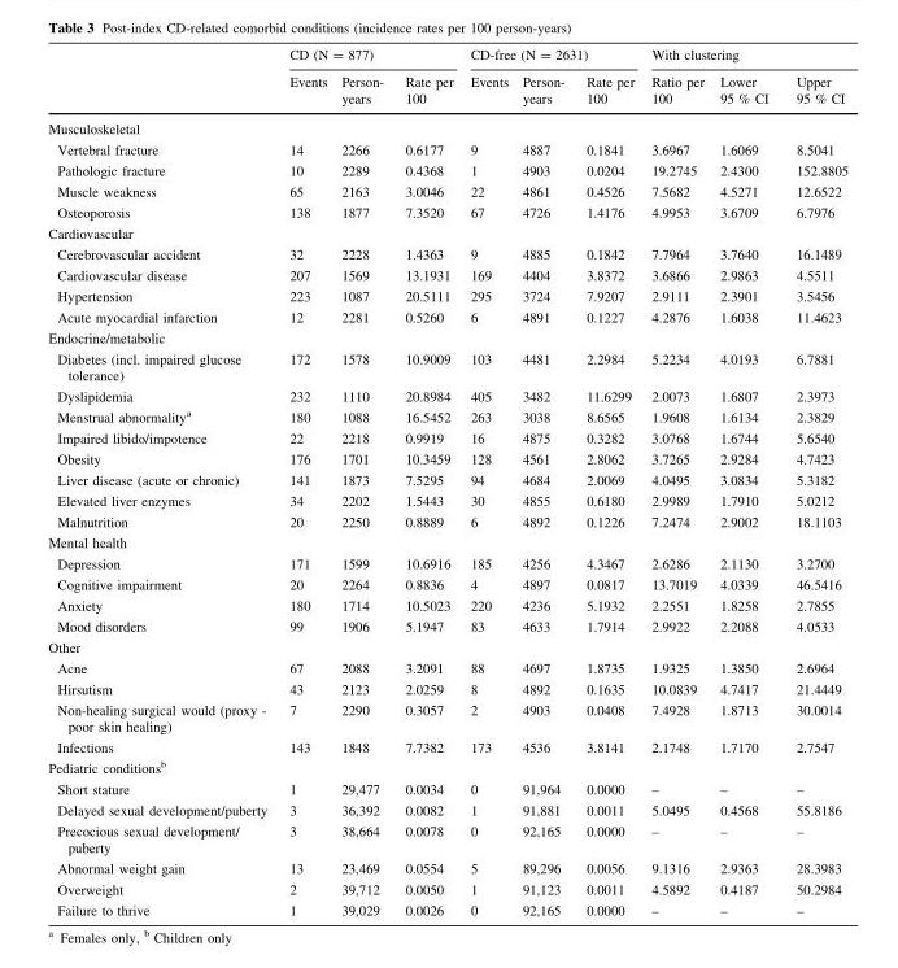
<table><thead><tr><td rowspan="2"></td><td colspan="3">CD (N = 877)</td><td colspan="3">CD-free (N = 2631)</td><td colspan="3">With clustering</td></tr><tr><td>Events</td><td>Person- years</td><td>Rate per 100</td><td>Events</td><td>Person- years</td><td>Rate per 100</td><td>Ratio per 100</td><td>Lower 95 % CI</td><td>Upper 95 % CI</td></tr></thead><tbody><tr><td colspan="10">Musculoskeletal</td></tr><tr><td>Vertebral fracture</td><td>14</td><td>2266</td><td>0.6177</td><td>9</td><td>4887</td><td>0.1841</td><td>3.6967</td><td>1.6069</td><td>8.5041</td></tr><tr><td>Pathologic fracture</td><td>10</td><td>2289</td><td>0.4368</td><td>1</td><td>4903</td><td>0.0204</td><td>19.2745</td><td>2.4300</td><td>152.8805</td></tr><tr><td>Muscle weakness</td><td>65</td><td>2163</td><td>3.0046</td><td>22</td><td>4861</td><td>0.4526</td><td>7.5682</td><td>4.5271</td><td>12.6522</td></tr><tr><td>Osteoporosis</td><td>138</td><td>1877</td><td>7.3520</td><td>67</td><td>4726</td><td>1.4176</td><td>4.9953</td><td>3.6709</td><td>6.7976</td></tr><tr><td colspan="10">Cardiovascular</td></tr><tr><td>Cerebrovascular accident</td><td>32</td><td>2228</td><td>1.4363</td><td>9</td><td>4885</td><td>0.1842</td><td>7.7964</td><td>3.7640</td><td>16.1489</td></tr><tr><td>Cardiovascular disease</td><td>207</td><td>1569</td><td>13.1931</td><td>169</td><td>4404</td><td>3.8372</td><td>3.6866</td><td>2.9863</td><td>4.5511</td></tr><tr><td>Hypertension</td><td>223</td><td>1087</td><td>20.5111</td><td>295</td><td>3724</td><td>7.9207</td><td>2.9111</td><td>2.3901</td><td>3.5456</td></tr><tr><td>Acute myocardial infarction</td><td>12</td><td>2281</td><td>0.5260</td><td>6</td><td>4891</td><td>0.1227</td><td>4.2876</td><td>1.6038</td><td>11.4623</td></tr><tr><td colspan="10">Endocrine/metabolic</td></tr><tr><td>Diabetes (incl. impaired glucose tolerance)</td><td>172</td><td>1578</td><td>10.9009</td><td>103</td><td>4481</td><td>2.2984</td><td>5.2234</td><td>4.0193</td><td>6.7881</td></tr><tr><td>Dyslipidemia</td><td>232</td><td>1110</td><td>20.8984</td><td>405</td><td>3482</td><td>11.6299</td><td>2.0073</td><td>1.6807</td><td>2.3973</td></tr><tr><td>Menstrual abnormality<sup>a</sup></td><td>180</td><td>1088</td><td>16.5452</td><td>263</td><td>3038</td><td>8.6565</td><td>1.9608</td><td>1.6134</td><td>2.3829</td></tr><tr><td>Impaired libido/impotence</td><td>22</td><td>2218</td><td>0.9919</td><td>16</td><td>4875</td><td>0.3282</td><td>3.0768</td><td>1.6744</td><td>5.6540</td></tr><tr><td>Obesity</td><td>176</td><td>1701</td><td>10.3459</td><td>128</td><td>4561</td><td>2.8062</td><td>3.7265</td><td>2.9284</td><td>4.7423</td></tr><tr><td>Liver disease (acute or chronic)</td><td>141</td><td>1873</td><td>7.5295</td><td>94</td><td>4684</td><td>2.0069</td><td>4.0495</td><td>3.0834</td><td>5.3182</td></tr><tr><td>Elevated liver enzymes</td><td>34</td><td>2202</td><td>1.5443</td><td>30</td><td>4855</td><td>0.6180</td><td>2.9989</td><td>1.7910</td><td>5.0212</td></tr><tr><td>Malnutrition</td><td>20</td><td>2250</td><td>0.8889</td><td>6</td><td>4892</td><td>0.1226</td><td>7.2474</td><td>2.9002</td><td>18.1103</td></tr><tr><td colspan="10">Mental health</td></tr><tr><td>Depression</td><td>171</td><td>1599</td><td>10.6916</td><td>185</td><td>4256</td><td>4.3467</td><td>2.6286</td><td>2.1130</td><td>3.2700</td></tr><tr><td>Cognitive impairment</td><td>20</td><td>2264</td><td>0.8836</td><td>4</td><td>4897</td><td>0.0817</td><td>13.7019</td><td>4.0339</td><td>46.5416</td></tr><tr><td>Anxiety</td><td>180</td><td>1714</td><td>10.5023</td><td>220</td><td>4236</td><td>5.1932</td><td>2.2551</td><td>1.8258</td><td>2.7855</td></tr><tr><td>Mood disorders</td><td>99</td><td>1906</td><td>5.1947</td><td>83</td><td>4633</td><td>1.7914</td><td>2.9922</td><td>2.2088</td><td>4.0533</td></tr><tr><td colspan="10">Other</td></tr><tr><td>Acne</td><td>67</td><td>2088</td><td>3.2091</td><td>88</td><td>4697</td><td>1.8735</td><td>1.9325</td><td>1.3850</td><td>2.6964</td></tr><tr><td>Hirsutism</td><td>43</td><td>2123</td><td>2.0259</td><td>8</td><td>4892</td><td>0.1635</td><td>10.0839</td><td>4.7417</td><td>21.4449</td></tr><tr><td>Non-healing surgical would (proxy - poor skin healing)</td><td>7</td><td>2290</td><td>0.3057</td><td>2</td><td>4903</td><td>0.0408</td><td>7.4928</td><td>1.8713</td><td>30.0014</td></tr><tr><td>Infections</td><td>143</td><td>1848</td><td>7.7382</td><td>173</td><td>4536</td><td>3.8141</td><td>2.1748</td><td>1.7170</td><td>2.7547</td></tr><tr><td colspan="10">Pediatric conditions<sup>b</sup></td></tr><tr><td>Short stature</td><td>1</td><td>29,477</td><td>0.0034</td><td>0</td><td>91,964</td><td>0.0000</td><td>–</td><td>–</td><td>–</td></tr><tr><td>Delayed sexual development/puberty</td><td>3</td><td>36,392</td><td>0.0082</td><td>1</td><td>91,881</td><td>0.0011</td><td>5.0495</td><td>0.4568</td><td>55.8186</td></tr><tr><td>Precocious sexual development/ puberty</td><td>3</td><td>38,664</td><td>0.0078</td><td>0</td><td>92,165</td><td>0.0000</td><td>–</td><td>–</td><td>–</td></tr><tr><td>Abnormal weight gain</td><td>13</td><td>23,469</td><td>0.0554</td><td>5</td><td>89,296</td><td>0.0056</td><td>9.1316</td><td>2.9363</td><td>28.3983</td></tr><tr><td>Overweight</td><td>2</td><td>39,712</td><td>0.0050</td><td>1</td><td>91,123</td><td>0.0011</td><td>4.5892</td><td>0.4187</td><td>50.2984</td></tr><tr><td>Failure to thrive</td><td>1</td><td>39,029</td><td>0.0026</td><td>0</td><td>92,165</td><td>0.0000</td><td>–</td><td>–</td><td>–</td></tr></tbody></table>